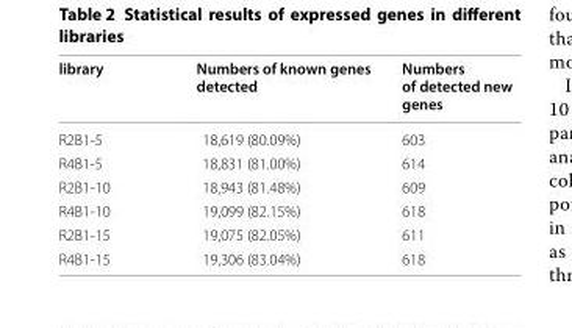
<table><thead><tr><td>library</td><td>Numbers of known genes detected</td><td>Numbers of detected new genes</td></tr></thead><tbody><tr><td>R2B1-5</td><td>18,619 (80.09%)</td><td>603</td></tr><tr><td>R4B1-5</td><td>18,831 (81.00%)</td><td>614</td></tr><tr><td>R2B1-10</td><td>18,943 (81.48%)</td><td>609</td></tr><tr><td>R4B1-10</td><td>19,099 (82.15%)</td><td>618</td></tr><tr><td>R2B1-15</td><td>19,075 (82.05%)</td><td>611</td></tr><tr><td>R4B1-15</td><td>19,306 (83.04%)</td><td>618</td></tr></tbody></table>